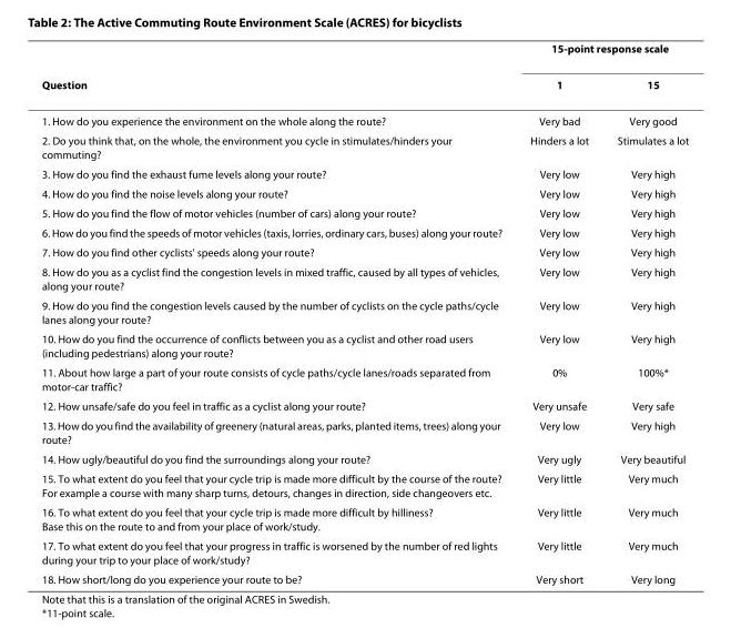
<table><thead><tr><td rowspan="2">Question</td><td colspan="2">15-point response scale</td></tr><tr><td>1</td><td>15</td></tr></thead><tbody><tr><td>1. How do you experience the environment on the whole along the route?</td><td>Very bad</td><td>Very good</td></tr><tr><td>2. Do you think that, on the whole, the environment you cycle in stimulates/hinders your commuting?</td><td>Hinders a lot</td><td>Stimulates a lot</td></tr><tr><td>3. How do you find the exhaust fume levels along your route?</td><td>Very low</td><td>Very high</td></tr><tr><td>4. How do you find the noise levels along your route?</td><td>Very low</td><td>Very high</td></tr><tr><td>5. How do you find the flow of motor vehicles (number of cars) along your route?</td><td>Very low</td><td>Very high</td></tr><tr><td>6. How do you find the speeds of motor vehicles (taxis, lorries, ordinary cars, buses) along your route?</td><td>Very low</td><td>Very high</td></tr><tr><td>7. How do you find other cyclists&#x27; speeds along your route?</td><td>Very low</td><td>Very high</td></tr><tr><td>8. How do you as a cyclist find the congestion levels in mixed traffic, caused by all types of vehicles, along your route?</td><td>Very low</td><td>Very high</td></tr><tr><td>9. How do you find the congestion levels caused by the number of cyclists on the cycle paths/cycle lanes along your route?</td><td>Very low</td><td>Very high</td></tr><tr><td>10. How do you find the occurrence of conflicts between you as a cyclist and other road users (including pedestrians) along your route?</td><td>Very low</td><td>Very high</td></tr><tr><td>11. About how large a part of your route consists of cycle paths/cycle lanes/roads separated from motor-car traffic?</td><td>0%</td><td>100%*</td></tr><tr><td>12. How unsafe/safe do you feel in traffic as a cyclist along your route?</td><td>Very unsafe</td><td>Very safe</td></tr><tr><td>13. How do you find the availability of greenery (natural areas, parks, planted items, trees) along your route?</td><td>Very low</td><td>Very high</td></tr><tr><td>14. How ugly/beautiful do you find the surroundings along your route?</td><td>Very ugly</td><td>Very beautiful</td></tr><tr><td>15. To what extent do you feel that your cycle trip is made more difficult by the course of the route? For example a course with many sharp turns, detours, changes in direction, side changeovers etc.</td><td>Very little</td><td>Very much</td></tr><tr><td>16. To what extent do you feel that your cycle trip is made more difficult by hilliness? Base this on the route to and from your place of work/study.</td><td>Very little</td><td>Very much</td></tr><tr><td>17. To what extent do you feel that your progress in traffic is worsened by the number of red lights during your trip to your place of work/study?</td><td>Very little</td><td>Very much</td></tr><tr><td>18. How short/long do you experience your route to be?</td><td>Very short</td><td>Very long</td></tr></tbody></table>